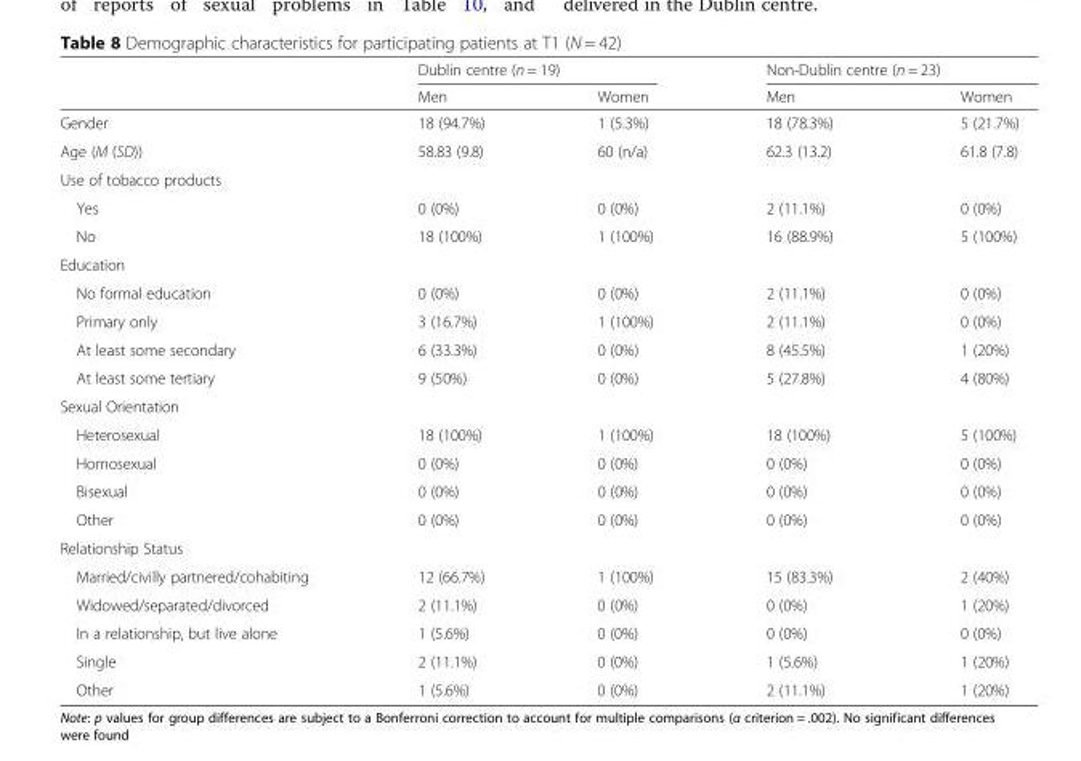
<table><thead><tr><td rowspan="2"></td><td colspan="2">Dublin centre (n = 19)</td><td colspan="2">Non-Dublin centre (n = 23)</td></tr><tr><td>Men</td><td>Women</td><td>Men</td><td>Women</td></tr></thead><tbody><tr><td>Gender</td><td>18 (94.7%)</td><td>1 (5.3%)</td><td>18 (78.3%)</td><td>5 (21.7%)</td></tr><tr><td>Age (M (SD))</td><td>58.83 (9.8)</td><td>60 (n/a)</td><td>62.3 (13.2)</td><td>61.8 (7.8)</td></tr><tr><td colspan="5">Use of tobacco products</td></tr><tr><td>Yes</td><td>0 (0%)</td><td>0 (0%)</td><td>2 (11.1%)</td><td>0 (0%)</td></tr><tr><td>No</td><td>18 (100%)</td><td>1 (100%)</td><td>16 (88.9%)</td><td>5 (100%)</td></tr><tr><td colspan="5">Education</td></tr><tr><td>No formal education</td><td>0 (0%)</td><td>0 (0%)</td><td>2 (11.1%)</td><td>0 (0%)</td></tr><tr><td>Primary only</td><td>3 (16.7%)</td><td>1 (100%)</td><td>2 (11.1%)</td><td>0 (0%)</td></tr><tr><td>At least some secondary</td><td>6 (33.3%)</td><td>0 (0%)</td><td>8 (45.5%)</td><td>1 (20%)</td></tr><tr><td>At least some tertiary</td><td>9 (50%)</td><td>0 (0%)</td><td>5 (27.8%)</td><td>4 (80%)</td></tr><tr><td colspan="5">Sexual Orientation</td></tr><tr><td>Heterosexual</td><td>18 (100%)</td><td>1 (100%)</td><td>18 (100%)</td><td>5 (100%)</td></tr><tr><td>Homosexual</td><td>0 (0%)</td><td>0 (0%)</td><td>0 (0%)</td><td>0 (0%)</td></tr><tr><td>Bisexual</td><td>0 (0%)</td><td>0 (0%)</td><td>0 (0%)</td><td>0 (0%)</td></tr><tr><td>Other</td><td>0 (0%)</td><td>0 (0%)</td><td>0 (0%)</td><td>0 (0%)</td></tr><tr><td colspan="5">Relationship Status</td></tr><tr><td>Married/civilly partnered/cohabiting</td><td>12 (66.7%)</td><td>1 (100%)</td><td>15 (83.3%)</td><td>2 (40%)</td></tr><tr><td>Widowed/separated/divorced</td><td>2 (11.1%)</td><td>0 (0%)</td><td>0 (0%)</td><td>1 (20%)</td></tr><tr><td>In a relationship, but live alone</td><td>1 (5.6%)</td><td>0 (0%)</td><td>0 (0%)</td><td>0 (0%)</td></tr><tr><td>Single</td><td>2 (11.1%)</td><td>0 (0%)</td><td>1 (5.6%)</td><td>1 (20%)</td></tr><tr><td>Other</td><td>1 (5.6%)</td><td>0 (0%)</td><td>2 (11.1%)</td><td>1 (20%)</td></tr></tbody></table>